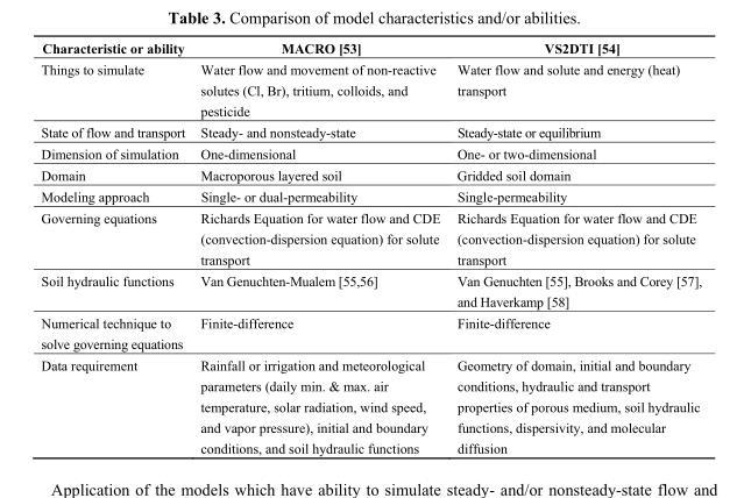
<table><thead><tr><td>Characteristic or ability</td><td>MACRO [53]</td><td>VS2DTI [54]</td></tr></thead><tbody><tr><td>Things to simulate</td><td>Water flow and movement of non-reactive solutes (Cl, Br), tritium, colloids, and pesticide</td><td>Water flow and solute and energy (heat) transport</td></tr><tr><td>State of flow and transport</td><td>Steady- and nonsteady-state</td><td>Steady-state or equilibrium</td></tr><tr><td>Dimension of simulation</td><td>One-dimensional</td><td>One- or two-dimensional</td></tr><tr><td>Domain</td><td>Macroporous layered soil</td><td>Gridded soil domain</td></tr><tr><td>Modeling approach</td><td>Single- or dual-permeability</td><td>Single-permeability</td></tr><tr><td>Governing equations</td><td>Richards Equation for water flow and CDE (convection-dispersion equation) for solute transport</td><td>Richards Equation for water flow and CDE (convection-dispersion equation) for solute transport</td></tr><tr><td>Soil hydraulic functions</td><td>Van Genuchten-Mualem [55,56]</td><td>Van Genuchten [55], Brooks and Corey [57], and Haverkamp [58]</td></tr><tr><td>Numerical technique to solve governing equations</td><td>Finite-difference</td><td>Finite-difference</td></tr><tr><td>Data requirement</td><td>Rainfall or irrigation and meteorological parameters (daily min. &amp; max. air temperature, solar radiation, wind speed, and vapor pressure), initial and boundary conditions, and soil hydraulic functions</td><td>Geometry of domain, initial and boundary conditions, hydraulic and transport properties of porous medium, soil hydraulic functions, dispersivity, and molecular diffusion</td></tr></tbody></table>